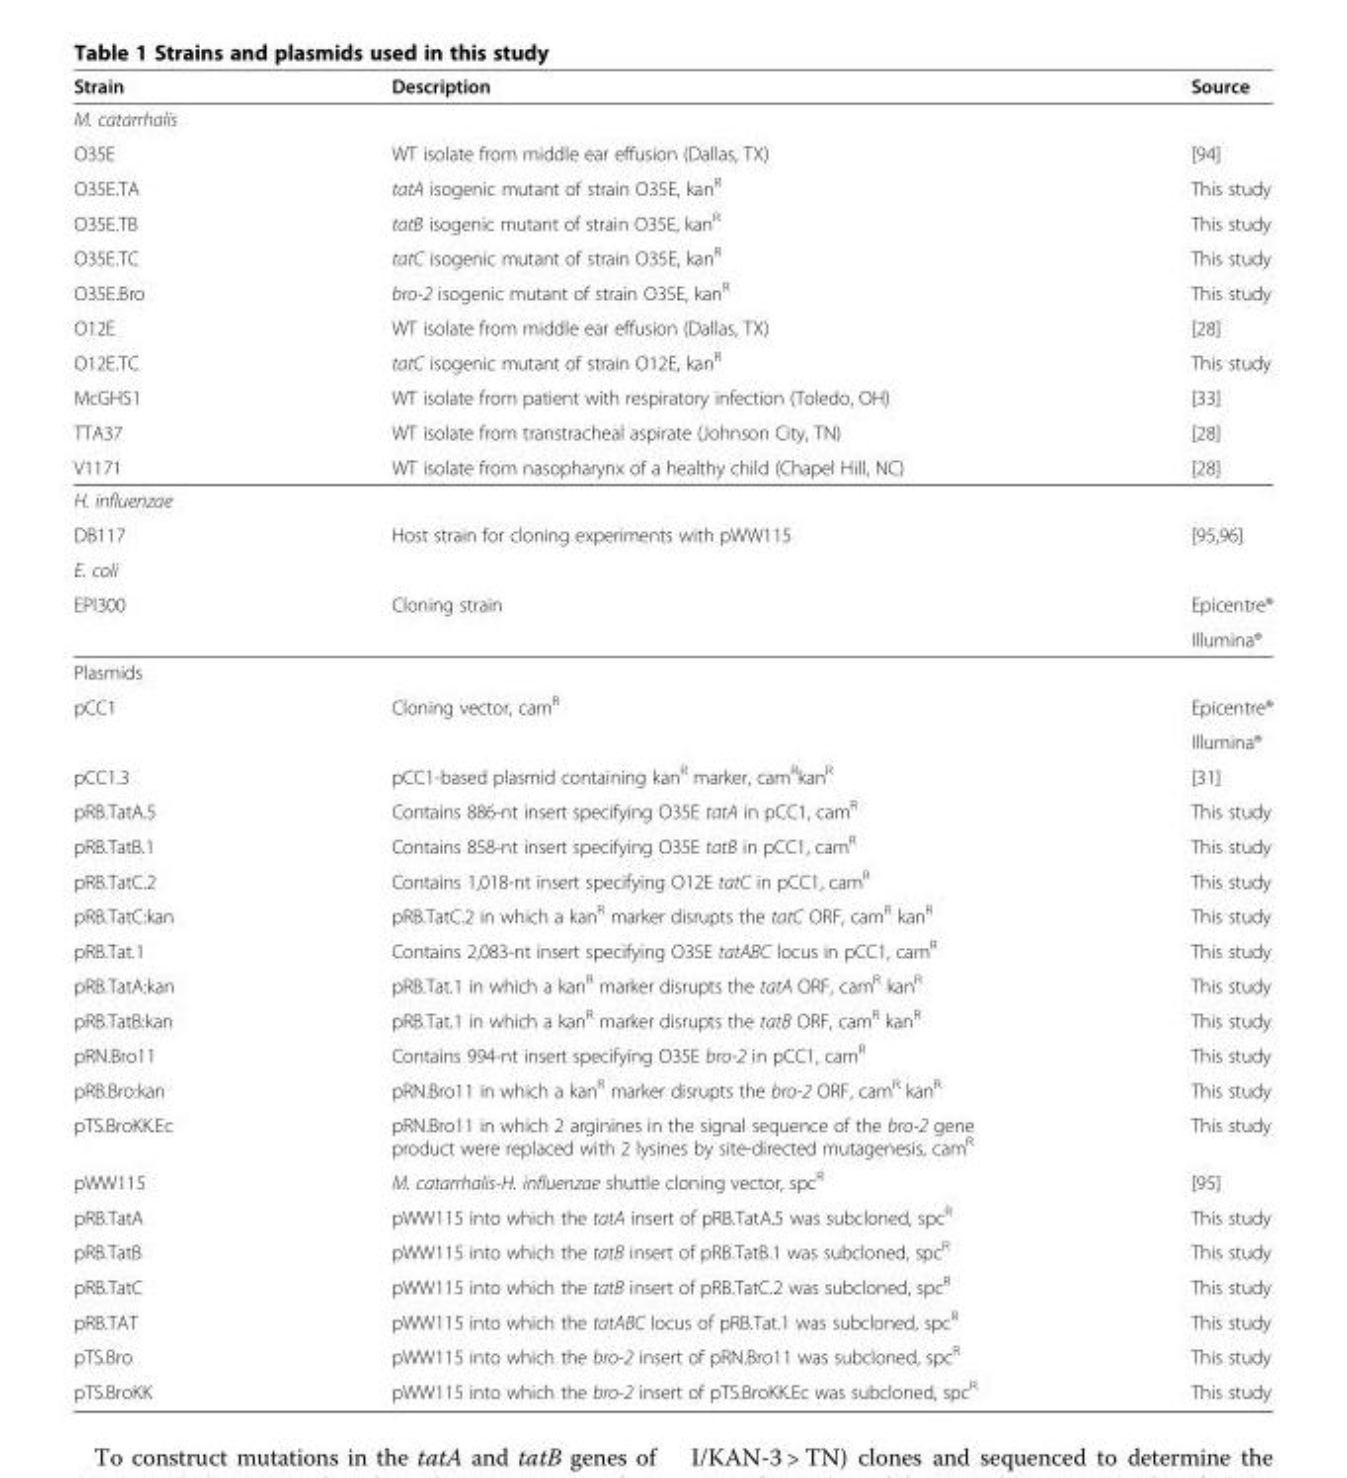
<table><thead><tr><td>Strain</td><td>Description</td><td>Source</td></tr></thead><tbody><tr><td colspan="3">M. catarrhalis</td></tr><tr><td>O35E</td><td>WT isolate from middle ear effusion (Dallas, TX)</td><td>[94]</td></tr><tr><td>O35E.TA</td><td>tatA isogenic mutant of strain O35E, kan<sup>R</sup></td><td>This study</td></tr><tr><td>O35E.TB</td><td>tatB isogenic mutant of strain O35E, kan<sup>R</sup></td><td>This study</td></tr><tr><td>O35E.TC</td><td>tatC isogenic mutant of strain O35E, kan<sup>R</sup></td><td>This study</td></tr><tr><td>O35E.Bro</td><td>bro-2 isogenic mutant of strain O35E, kan<sup>R</sup></td><td>This study</td></tr><tr><td>O12E</td><td>WT isolate from middle ear effusion (Dallas, TX)</td><td>[28]</td></tr><tr><td>O12E.TC</td><td>tatC isogenic mutant of strain O12E, kan<sup>R</sup></td><td>This study</td></tr><tr><td>McGHS1</td><td>WT isolate from patient with respiratory infection (Toledo, OH)</td><td>[33]</td></tr><tr><td>TTA37</td><td>WT isolate from transtracheal aspirate (Johnson City, TN)</td><td>[28]</td></tr><tr><td>V1171</td><td>WT isolate from nasopharynx of a healthy child (Chapel Hill, NC)</td><td>[28]</td></tr><tr><td colspan="3">H. influenzae</td></tr><tr><td>DB117</td><td>Host strain for cloning experiments with pWW115</td><td>[95,96]</td></tr><tr><td colspan="3">E. coli</td></tr><tr><td rowspan="2">EPI300</td><td rowspan="2">Cloning strain</td><td>Epicentre®</td></tr><tr><td>Illumina®</td></tr><tr><td colspan="3">Plasmids</td></tr><tr><td rowspan="2">pCC1</td><td rowspan="2">Cloning vector, cam<sup>R</sup></td><td>Epicentre®</td></tr><tr><td>Illumina®</td></tr><tr><td>pCC1.3</td><td>pCC1-based plasmid containing kan<sup>R</sup> marker, cam<sup>R</sup>kan<sup>R</sup></td><td>[31]</td></tr><tr><td>pRB.TatA.5</td><td>Contains 886-nt insert specifying O35E tatA in pCC1, cam<sup>R</sup></td><td>This study</td></tr><tr><td>pRB.TatB.1</td><td>Contains 858-nt insert specifying O35E tatB in pCC1, cam<sup>R</sup></td><td>This study</td></tr><tr><td>pRB.TatC.2</td><td>Contains 1,018-nt insert specifying O12E tatC in pCC1, cam<sup>R</sup></td><td>This study</td></tr><tr><td>pRB.TatC:kan</td><td>pRB.TatC.2 in which a kan<sup>R</sup> marker disrupts the tatC ORF, cam<sup>R</sup> kan<sup>R</sup></td><td>This study</td></tr><tr><td>pRB.Tat.1</td><td>Contains 2,083-nt insert specifying O35E tatABC locus in pCC1, cam<sup>R</sup></td><td>This study</td></tr><tr><td>pRB.TatA:kan</td><td>pRB.Tat.1 in which a kan<sup>R</sup> marker disrupts the tatA ORF, cam<sup>R</sup> kan<sup>R</sup></td><td>This study</td></tr><tr><td>pRB.TatB:kan</td><td>pRB.Tat.1 in which a kan<sup>R</sup> marker disrupts the tatB ORF, cam<sup>R</sup> kan<sup>R</sup></td><td>This study</td></tr><tr><td>pRN.Bro11</td><td>Contains 994-nt insert specifying O35E bro-2 in pCC1, cam<sup>R</sup></td><td>This study</td></tr><tr><td>pRB.Bro:kan</td><td>pRN.Bro11 in which a kan<sup>R</sup> marker disrupts the bro-2 ORF, cam<sup>R</sup> kan<sup>R</sup></td><td>This study</td></tr><tr><td>pTS.BroKK.Ec</td><td>pRN.Bro11 in which 2 arginines in the signal sequence of the bro-2 gene product were replaced with 2 lysines by site-directed mutagenesis, cam<sup>R</sup></td><td>This study</td></tr><tr><td>pWW115</td><td>M. catarrhalis-H. influenzae shuttle cloning vector, spc<sup>R</sup></td><td>[95]</td></tr><tr><td>pRB.TatA</td><td>pWW115 into which the tatA insert of pRB.TatA.5 was subcloned, spc<sup>R</sup></td><td>This study</td></tr><tr><td>pRB.TatB</td><td>pWW115 into which the tatB insert of pRB.TatB.1 was subcloned, spc<sup>R</sup></td><td>This study</td></tr><tr><td>pRB.TatC</td><td>pWW115 into which the tatB insert of pRB.TatC.2 was subcloned, spc<sup>R</sup></td><td>This study</td></tr><tr><td>pRB.TAT</td><td>pWW115 into which the tatABC locus of pRB.Tat.1 was subcloned, spc<sup>R</sup></td><td>This study</td></tr><tr><td>pTS.Bro</td><td>pWW115 into which the bro-2 insert of pRN.Bro11 was subcloned, spc<sup>R</sup></td><td>This study</td></tr><tr><td>pTS.BroKK</td><td>pWW115 into which the bro-2 insert of pTS.BroKK.Ec was subcloned, spc<sup>R</sup></td><td>This study</td></tr></tbody></table>